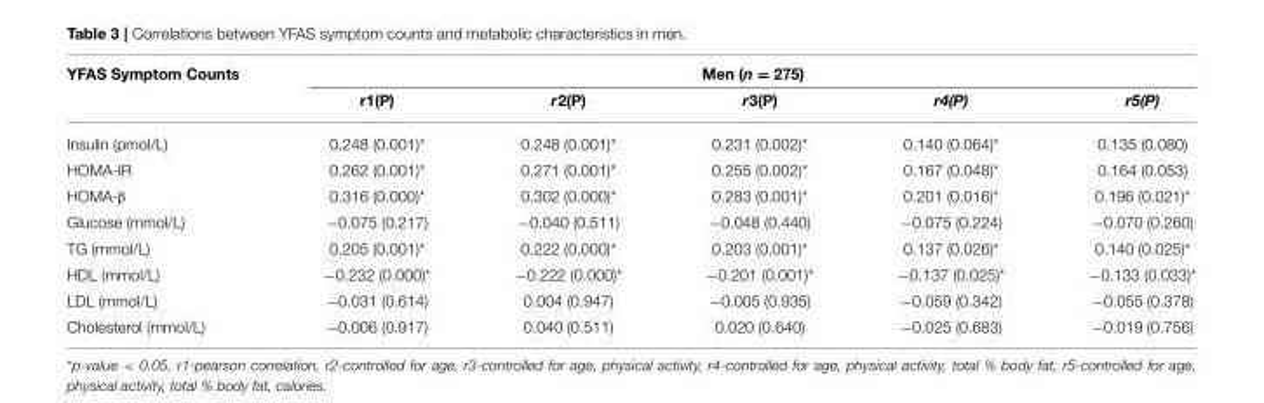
<table><thead><tr><td rowspan="2">YFAS Symptom Counts</td><td colspan="5">Men (n = 275)</td></tr><tr><td>r1(P)</td><td>r2(P)</td><td>r3(P)</td><td>r4(P)</td><td>r5(P)</td></tr></thead><tbody><tr><td>Insulin (pmol/L)</td><td>0.248 (0.001)*</td><td>0.248 (0.001)*</td><td>0.231 (0.002)*</td><td>0.140 (0.064)*</td><td>0.135 (0.080)</td></tr><tr><td>HOMA-IR</td><td>0.262 (0.001)*</td><td>0.271 (0.001)*</td><td>0.255 (0.002)*</td><td>0.167 (0.048)*</td><td>0.164 (0.053)</td></tr><tr><td>HOMA-β</td><td>0.316 (0.000)*</td><td>0.302 (0.000)*</td><td>0.283 (0.001)*</td><td>0.201 (0.016)*</td><td>0.196 (0.021)*</td></tr><tr><td>Glucose (mmol/L)</td><td>−0.075 (0.217)</td><td>−0.040 (0.511)</td><td>−0.048 (0.440)</td><td>−0.075 (0.224)</td><td>−0.070 (0.260)</td></tr><tr><td>TG (mmol/L)</td><td>0.205 (0.001)*</td><td>0.222 (0.000)*</td><td>0.203 (0.001)*</td><td>0.137 (0.026)*</td><td>0.140 (0.025)*</td></tr><tr><td>HDL (mmol/L)</td><td>−0.232 (0.000)*</td><td>−0.222 (0.000)*</td><td>−0.201 (0.001)*</td><td>−0.137 (0.025)*</td><td>−0.133 (0.033)*</td></tr><tr><td>LDL (mmol/L)</td><td>−0.031 (0.614)</td><td>0.004 (0.947)</td><td>−0.005 (0.935)</td><td>−0.059 (0.342)</td><td>−0.055 (0.378)</td></tr><tr><td>Cholesterol (mmol/L)</td><td>−0.006 (0.917)</td><td>0.040 (0.511)</td><td>0.020 (0.640)</td><td>−0.025 (0.683)</td><td>−0.019 (0.756)</td></tr></tbody></table>